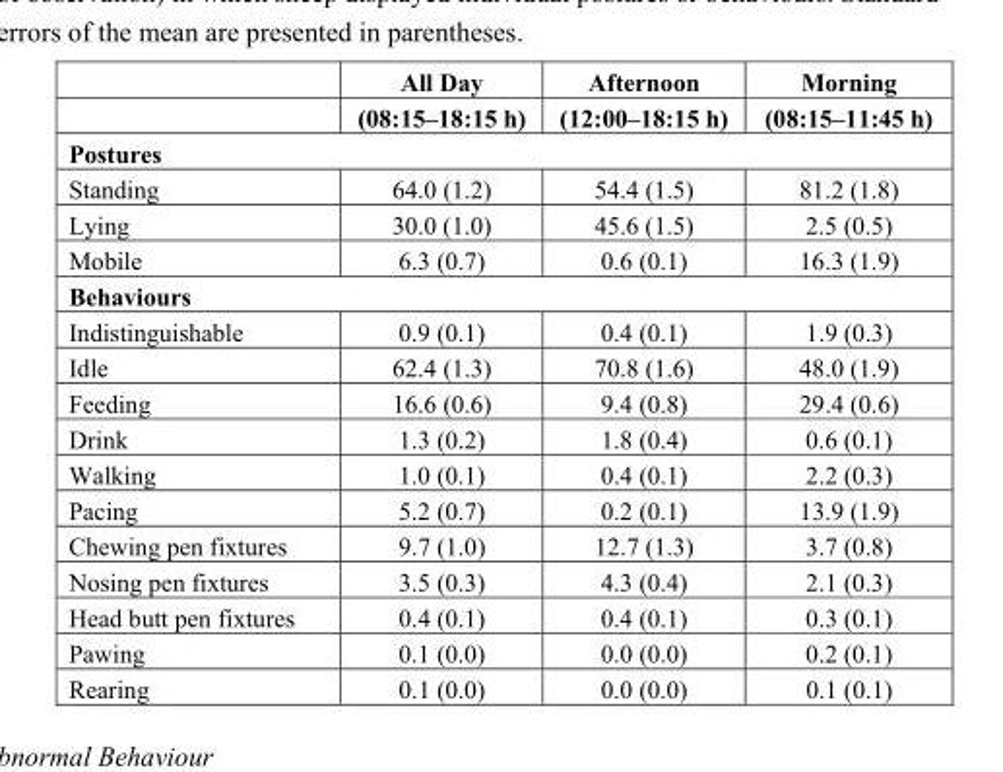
<table><thead><tr><td rowspan="2"></td><td rowspan="2">All Day (08:15–18:15 h)</td><td rowspan="2">Afternoon (12:00–18:15 h)</td><td rowspan="2">Morning (08:15–11:45 h)</td></tr><tr></tr></thead><tbody><tr><td colspan="4">Postures</td></tr><tr><td>Standing</td><td>64.0 (1.2)</td><td>54.4 (1.5)</td><td>81.2 (1.8)</td></tr><tr><td>Lying</td><td>30.0 (1.0)</td><td>45.6 (1.5)</td><td>2.5 (0.5)</td></tr><tr><td>Mobile</td><td>6.3 (0.7)</td><td>0.6 (0.1)</td><td>16.3 (1.9)</td></tr><tr><td colspan="4">Behaviours</td></tr><tr><td>Indistinguishable</td><td>0.9 (0.1)</td><td>0.4 (0.1)</td><td>1.9 (0.3)</td></tr><tr><td>Idle</td><td>62.4 (1.3)</td><td>70.8 (1.6)</td><td>48.0 (1.9)</td></tr><tr><td>Feeding</td><td>16.6 (0.6)</td><td>9.4 (0.8)</td><td>29.4 (0.6)</td></tr><tr><td>Drink</td><td>1.3 (0.2)</td><td>1.8 (0.4)</td><td>0.6 (0.1)</td></tr><tr><td>Walking</td><td>1.0 (0.1)</td><td>0.4 (0.1)</td><td>2.2 (0.3)</td></tr><tr><td>Pacing</td><td>5.2 (0.7)</td><td>0.2 (0.1)</td><td>13.9 (1.9)</td></tr><tr><td>Chewing pen fixtures</td><td>9.7 (1.0)</td><td>12.7 (1.3)</td><td>3.7 (0.8)</td></tr><tr><td>Nosing pen fixtures</td><td>3.5 (0.3)</td><td>4.3 (0.4)</td><td>2.1 (0.3)</td></tr><tr><td>Head butt pen fixtures</td><td>0.4 (0.1)</td><td>0.4 (0.1)</td><td>0.3 (0.1)</td></tr><tr><td>Pawing</td><td>0.1 (0.0)</td><td>0.0 (0.0)</td><td>0.2 (0.1)</td></tr><tr><td>Rearing</td><td>0.1 (0.0)</td><td>0.0 (0.0)</td><td>0.1 (0.1)</td></tr></tbody></table>